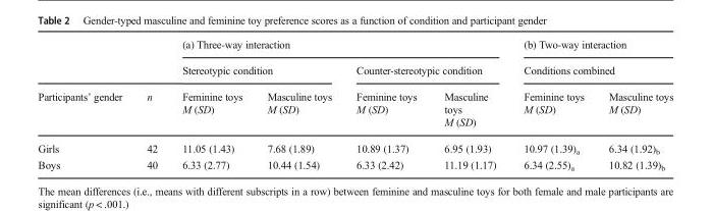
<table><thead><tr><td rowspan="3">Participants’ gender</td><td rowspan="3">n</td><td colspan="4">(a) Three-way interaction</td><td rowspan="2" colspan="2">(b) Two-way interaction Conditions combined</td></tr><tr><td colspan="2">Stereotypic condition</td><td colspan="2">Counter-stereotypic condition</td></tr><tr><td>Feminine toys M (SD)</td><td>Masculine toys M (SD)</td><td>Feminine toys M (SD)</td><td>Masculine toys M (SD)</td><td>Feminine toys M (SD)</td><td>Masculine toys M (SD)</td></tr></thead><tbody><tr><td>Girls</td><td>42</td><td>11.05 (1.43)</td><td>7.68 (1.89)</td><td>10.89 (1.37)</td><td>6.95 (1.93)</td><td>10.97 (1.39)<sub>a</sub></td><td>6.34 (1.92)<sub>b</sub></td></tr><tr><td>Boys</td><td>40</td><td>6.33 (2.77)</td><td>10.44 (1.54)</td><td>6.33 (2.42)</td><td>11.19 (1.17)</td><td>6.34 (2.55)<sub>a</sub></td><td>10.82 (1.39)<sub>b</sub></td></tr></tbody></table>